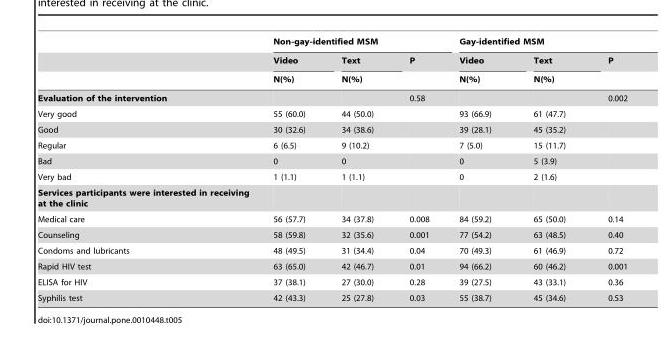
<table><thead><tr><td rowspan="3"></td><td colspan="3">Non-gay-identified MSM</td><td colspan="3">Gay-identified MSM</td></tr><tr><td rowspan="2">Video N(%)</td><td rowspan="2">Text N(%)</td><td rowspan="2">P</td><td rowspan="2">Video N(%)</td><td rowspan="2">Text N(%)</td><td rowspan="2">P</td></tr><tr></tr></thead><tbody><tr><td>Evaluation of the intervention</td><td></td><td></td><td>0.58</td><td></td><td></td><td>0.002</td></tr><tr><td>Very good</td><td>55 (60.0)</td><td>44 (50.0)</td><td></td><td>93 (66.9)</td><td>61 (47.7)</td><td></td></tr><tr><td>Good</td><td>30 (32.6)</td><td>34 (38.6)</td><td></td><td>39 (28.1)</td><td>45 (35.2)</td><td></td></tr><tr><td>Regular</td><td>6 (6.5)</td><td>9 (10.2)</td><td></td><td>7 (5.0)</td><td>15 (11.7)</td><td></td></tr><tr><td>Bad</td><td>0</td><td>0</td><td></td><td>0</td><td>5 (3.9)</td><td></td></tr><tr><td>Very bad</td><td>1 (1.1)</td><td>1 (1.1)</td><td></td><td>0</td><td>2 (1.6)</td><td></td></tr><tr><td colspan="7">Services participants were interested in receiving at the clinic</td></tr><tr><td>Medical care</td><td>56 (57.7)</td><td>34 (37.8)</td><td>0.008</td><td>84 (59.2)</td><td>65 (50.0)</td><td>0.14</td></tr><tr><td>Counseling</td><td>58 (59.8)</td><td>32 (35.6)</td><td>0.001</td><td>77 (54.2)</td><td>63 (48.5)</td><td>0.40</td></tr><tr><td>Condoms and lubricants</td><td>48 (49.5)</td><td>31 (34.4)</td><td>0.04</td><td>70 (49.3)</td><td>61 (46.9)</td><td>0.72</td></tr><tr><td>Rapid HIV test</td><td>63 (65.0)</td><td>42 (46.7)</td><td>0.01</td><td>94 (66.2)</td><td>60 (46.2)</td><td>0.001</td></tr><tr><td>ELISA for HIV</td><td>37 (38.1)</td><td>27 (30.0)</td><td>0.28</td><td>39 (27.5)</td><td>43 (33.1)</td><td>0.36</td></tr><tr><td>Syphilis test</td><td>42 (43.3)</td><td>25 (27.8)</td><td>0.03</td><td>55 (38.7)</td><td>45 (34.6)</td><td>0.53</td></tr></tbody></table>